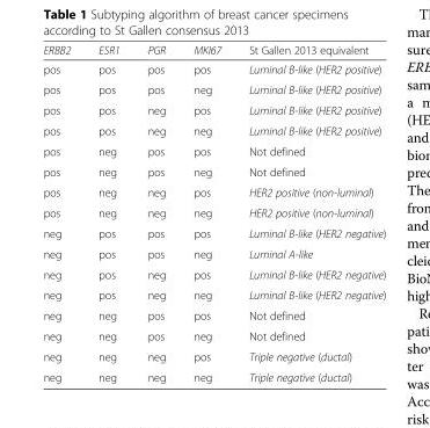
<table><thead><tr><td>ERBB2</td><td>ESR1</td><td>PGR</td><td>MKI67</td><td>St Gallen 2013 equivalent</td></tr></thead><tbody><tr><td>pos</td><td>pos</td><td>pos</td><td>pos</td><td>Luminal B-like (HER2 positive)</td></tr><tr><td>pos</td><td>pos</td><td>pos</td><td>neg</td><td>Luminal B-like (HER2 positive)</td></tr><tr><td>pos</td><td>pos</td><td>neg</td><td>pos</td><td>Luminal B-like (HER2 positive)</td></tr><tr><td>pos</td><td>pos</td><td>neg</td><td>neg</td><td>Luminal B-like (HER2 positive)</td></tr><tr><td>pos</td><td>neg</td><td>pos</td><td>pos</td><td>Not defined</td></tr><tr><td>pos</td><td>neg</td><td>pos</td><td>neg</td><td>Not defined</td></tr><tr><td>pos</td><td>neg</td><td>neg</td><td>pos</td><td>HER2 positive (non-luminal)</td></tr><tr><td>pos</td><td>neg</td><td>neg</td><td>neg</td><td>HER2 positive (non-luminal)</td></tr><tr><td>neg</td><td>pos</td><td>pos</td><td>pos</td><td>Luminal B-like (HER2 negative)</td></tr><tr><td>neg</td><td>pos</td><td>pos</td><td>neg</td><td>Luminal A-like</td></tr><tr><td>neg</td><td>pos</td><td>neg</td><td>pos</td><td>Luminal B-like (HER2 negative)</td></tr><tr><td>neg</td><td>pos</td><td>neg</td><td>neg</td><td>Luminal B-like (HER2 negative)</td></tr><tr><td>neg</td><td>neg</td><td>pos</td><td>pos</td><td>Not defined</td></tr><tr><td>neg</td><td>neg</td><td>pos</td><td>neg</td><td>Not defined</td></tr><tr><td>neg</td><td>neg</td><td>neg</td><td>pos</td><td>Triple negative (ductal)</td></tr><tr><td>neg</td><td>neg</td><td>neg</td><td>neg</td><td>Triple negative (ductal)</td></tr></tbody></table>